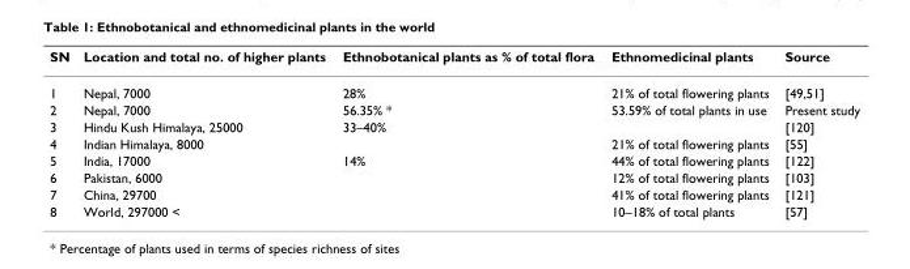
<table><thead><tr><td>SN</td><td>Location and total no. of higher plants</td><td>Ethnobotanical plants as % of total flora</td><td>Ethnomedicinal plants</td><td>Source</td></tr></thead><tbody><tr><td>1</td><td>Nepal, 7000</td><td>28%</td><td>21% of total flowering plants</td><td>[49,51]</td></tr><tr><td>2</td><td>Nepal, 7000</td><td>56.35% *</td><td>53.59% of total plants in use</td><td>Present study</td></tr><tr><td>3</td><td>Hindu Kush Himalaya, 25000</td><td>33–40%</td><td></td><td>[120]</td></tr><tr><td>4</td><td>Indian Himalaya, 8000</td><td></td><td>21% of total flowering plants</td><td>[55]</td></tr><tr><td>5</td><td>India, 17000</td><td>14%</td><td>44% of total flowering plants</td><td>[122]</td></tr><tr><td>6</td><td>Pakistan, 6000</td><td></td><td>12% of total flowering plants</td><td>[103]</td></tr><tr><td>7</td><td>China, 29700</td><td></td><td>41% of total flowering plants</td><td>[121]</td></tr><tr><td>8</td><td>World, 297000 &lt;</td><td></td><td>10–18% of total plants</td><td>[57]</td></tr></tbody></table>